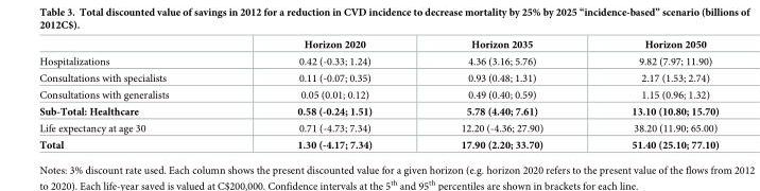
<table><thead><tr><td></td><td>Horizon 2020</td><td>Horizon 2035</td><td>Horizon 2050</td></tr></thead><tbody><tr><td>Hospitalizations</td><td>0.42 (-0.33; 1.24)</td><td>4.36 (3.16; 5.76)</td><td>9.82 (7.97; 11.90)</td></tr><tr><td>Consultations with specialists</td><td>0.11 (-0.07; 0.35)</td><td>0.93 (0.48; 1.31)</td><td>2.17 (1.53; 2.74)</td></tr><tr><td>Consultations with generalists</td><td>0.05 (0.01; 0.12)</td><td>0.49 (0.40; 0.59)</td><td>1.15 (0.96; 1.32)</td></tr><tr><td>Sub-Total: Healthcare</td><td>0.58 (-0.24; 1.51)</td><td>5.78 (4.40; 7.61)</td><td>13.10 (10.80; 15.70)</td></tr><tr><td>Life expectancy at age 30</td><td>0.71 (-4.73; 7.34)</td><td>12.20 (-4.36; 27.90)</td><td>38.20 (11.90; 65.00)</td></tr><tr><td>Total</td><td>1.30 (-4.17; 7.34)</td><td>17.90 (2.20; 33.70)</td><td>51.40 (25.10; 77.10)</td></tr></tbody></table>